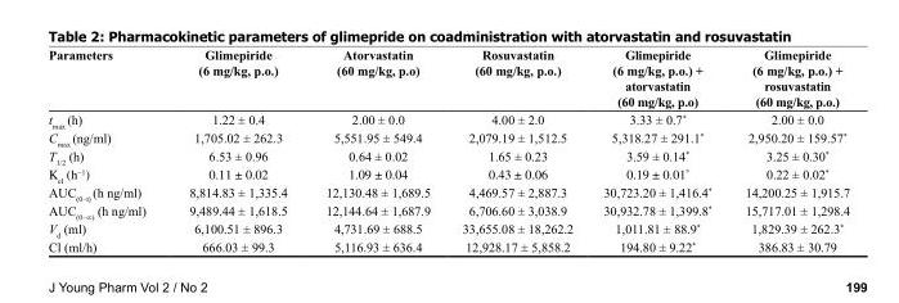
<table><thead><tr><td>Parameters</td><td>Glimepiride (6 mg/kg, p.o.)</td><td>Atorvastatin (60 mg/kg, p.o)</td><td>Rosuvastatin (60 mg/kg, p.o.)</td><td>Glimepiride (6 mg/kg, p.o.) + atorvastatin (60 mg/kg, p.o)</td><td>Glimepiride (6 mg/kg, p.o.) + rosuvastatin (60 mg/kg, p.o.)</td></tr></thead><tbody><tr><td>t<sub>max</sub> (h)</td><td>1.22 ± 0.4</td><td>2.00 ± 0.0</td><td>4.00 ± 2.0</td><td>3.33 ± 0.7*</td><td>2.00 ± 0.0</td></tr><tr><td>C<sub>max</sub> (ng/ml)</td><td>1,705.02 ± 262.3</td><td>5,551.95 ± 549.4</td><td>2,079.19 ± 1,512.5</td><td>5,318.27 ± 291.1*</td><td>2,950.20 ± 159.57*</td></tr><tr><td>T<sub>1/2</sub> (h)</td><td>6.53 ± 0.96</td><td>0.64 ± 0.02</td><td>1.65 ± 0.23</td><td>3.59 ± 0.14*</td><td>3.25 ± 0.30*</td></tr><tr><td>K<sub>el</sub> (h<sup>−1</sup>)</td><td>0.11 ± 0.02</td><td>1.09 ± 0.04</td><td>0.43 ± 0.06</td><td>0.19 ± 0.01*</td><td>0.22 ± 0.02*</td></tr><tr><td>AUC<sub>(0–t)</sub> (h ng/ml)</td><td>8,814.83 ± 1,335.4</td><td>12,130.48 ± 1,689.5</td><td>4,469.57 ± 2,887.3</td><td>30,723.20 ± 1,416.4*</td><td>14,200.25 ± 1,915.7</td></tr><tr><td>AUC(0–∞) (h ng/ml)</td><td>9,489.44 ± 1,618.5</td><td>12,144.64 ± 1,687.9</td><td>6,706.60 ± 3,038.9</td><td>30,932.78 ± 1,399.8*</td><td>15,717.01 ± 1,298.4</td></tr><tr><td>V<sub>d</sub> (ml)</td><td>6,100.51 ± 896.3</td><td>4,731.69 ± 688.5</td><td>33,655.08 ± 18,262.2</td><td>1,011.81 ± 88.9*</td><td>1,829.39 ± 262.3*</td></tr><tr><td>Cl (ml/h)</td><td>666.03 ± 99.3</td><td>5,116.93 ± 636.4</td><td>12,928.17 ± 5,858.2</td><td>194.80 ± 9.22*</td><td>386.83 ± 30.79</td></tr></tbody></table>